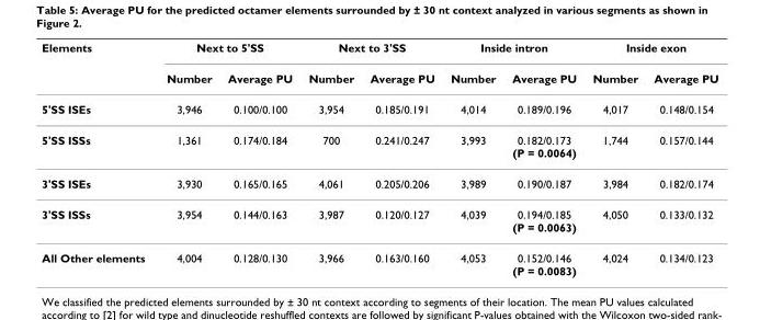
<table><thead><tr><td rowspan="2">Elements</td><td colspan="2">Next to 5&#x27;SS</td><td colspan="2">Next to 3&#x27;SS</td><td colspan="2">Inside intron</td><td colspan="2">Inside exon</td></tr><tr><td>Number</td><td>Average PU</td><td>Number</td><td>Average PU</td><td>Number</td><td>Average PU</td><td>Number</td><td>Average PU</td></tr></thead><tbody><tr><td>5&#x27;SS ISEs</td><td>3,946</td><td>0.100/0.100</td><td>3,954</td><td>0.185/0.191</td><td>4,014</td><td>0.189/0.196</td><td>4,017</td><td>0.148/0.154</td></tr><tr><td>5&#x27;SS ISSs</td><td>1,361</td><td>0.174/0.184</td><td>700</td><td>0.241/0.247</td><td>3,993</td><td>0.182/0.173 (P = 0.0064)</td><td>1,744</td><td>0.157/0.144</td></tr><tr><td>3&#x27;SS ISEs</td><td>3,930</td><td>0.165/0.165</td><td>4,061</td><td>0.205/0.206</td><td>3,989</td><td>0.190/0.187</td><td>3,984</td><td>0.182/0.174</td></tr><tr><td>3&#x27;SS ISSs</td><td>3,954</td><td>0.144/0.163</td><td>3,987</td><td>0.120/0.127</td><td>4,039</td><td>0.194/0.185 (P = 0.0063)</td><td>4,050</td><td>0.133/0.132</td></tr><tr><td>All Other elements</td><td>4,004</td><td>0.128/0.130</td><td>3,966</td><td>0.163/0.160</td><td>4,053</td><td>0.152/0.146 (P = 0.0083)</td><td>4,024</td><td>0.134/0.123</td></tr></tbody></table>